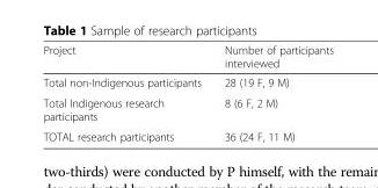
<table><thead><tr><td>Project</td><td>Number of participants interviewed</td></tr></thead><tbody><tr><td>Total non-Indigenous participants</td><td>28 (19 F, 9 M)</td></tr><tr><td>Total Indigenous research participants</td><td>8 (6 F, 2 M)</td></tr><tr><td>TOTAL research participants</td><td>36 (24 F, 11 M)</td></tr></tbody></table>